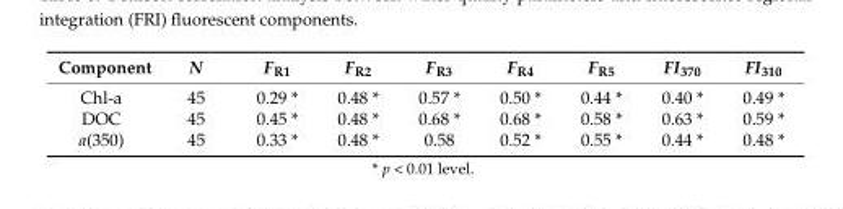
<table><thead><tr><td>Component</td><td>N</td><td>F<sub>R1</sub></td><td>F<sub>R2</sub></td><td>F<sub>R3</sub></td><td>F<sub>R4</sub></td><td>F<sub>R5</sub></td><td>FI<sub>370</sub></td><td>FI<sub>310</sub></td></tr></thead><tbody><tr><td>Chl-a</td><td>45</td><td>0.29 *</td><td>0.48 *</td><td>0.57 *</td><td>0.50 *</td><td>0.44 *</td><td>0.40 *</td><td>0.49 *</td></tr><tr><td>DOC</td><td>45</td><td>0.45 *</td><td>0.48 *</td><td>0.68 *</td><td>0.68 *</td><td>0.58 *</td><td>0.63 *</td><td>0.59 *</td></tr><tr><td>a(350)</td><td>45</td><td>0.33 *</td><td>0.48 *</td><td>0.58</td><td>0.52 *</td><td>0.55 *</td><td>0.44 *</td><td>0.48 *</td></tr></tbody></table>